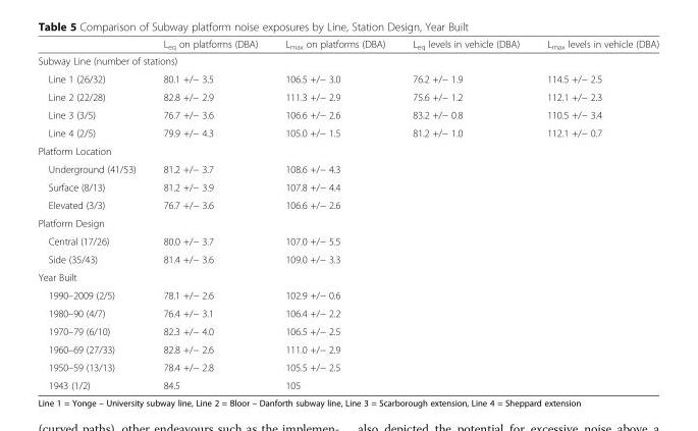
<table><thead><tr><td></td><td>L<sub>eq</sub> on platforms (DBA)</td><td>L<sub>max</sub> on platforms (DBA)</td><td>L<sub>eq</sub> levels in vehicle (DBA)</td><td>L<sub>max</sub> levels in vehicle (DBA)</td></tr></thead><tbody><tr><td colspan="5">Subway Line (number of stations)</td></tr><tr><td>Line 1 (26/32)</td><td>80.1 +/− 3.5</td><td>106.5 +/− 3.0</td><td>76.2 +/− 1.9</td><td>114.5 +/− 2.5</td></tr><tr><td>Line 2 (22/28)</td><td>82.8 +/− 2.9</td><td>111.3 +/− 2.9</td><td>75.6 +/− 1.2</td><td>112.1 +/− 2.3</td></tr><tr><td>Line 3 (3/5)</td><td>76.7 +/− 3.6</td><td>106.6 +/− 2.6</td><td>83.2 +/− 0.8</td><td>110.5 +/− 3.4</td></tr><tr><td>Line 4 (2/5)</td><td>79.9 +/− 4.3</td><td>105.0 +/− 1.5</td><td>81.2 +/− 1.0</td><td>112.1 +/− 0.7</td></tr><tr><td colspan="5">Platform Location</td></tr><tr><td>Underground (41/53)</td><td>81.2 +/− 3.7</td><td>108.6 +/− 4.3</td><td></td><td></td></tr><tr><td>Surface (8/13)</td><td>81.2 +/− 3.9</td><td>107.8 +/− 4.4</td><td></td><td></td></tr><tr><td>Elevated (3/3)</td><td>76.7 +/− 3.6</td><td>106.6 +/− 2.6</td><td></td><td></td></tr><tr><td colspan="5">Platform Design</td></tr><tr><td>Central (17/26)</td><td>80.0 +/− 3.7</td><td>107.0 +/− 5.5</td><td></td><td></td></tr><tr><td>Side (35/43)</td><td>81.4 +/− 3.6</td><td>109.0 +/− 3.3</td><td></td><td></td></tr><tr><td colspan="5">Year Built</td></tr><tr><td>1990–2009 (2/5)</td><td>78.1 +/− 2.6</td><td>102.9 +/− 0.6</td><td></td><td></td></tr><tr><td>1980–90 (4/7)</td><td>76.4 +/− 3.1</td><td>106.4 +/− 2.2</td><td></td><td></td></tr><tr><td>1970–79 (6/10)</td><td>82.3 +/− 4.0</td><td>106.5 +/− 2.5</td><td></td><td></td></tr><tr><td>1960–69 (27/33)</td><td>82.8 +/− 2.6</td><td>111.0 +/− 2.9</td><td></td><td></td></tr><tr><td>1950–59 (13/13)</td><td>78.4 +/− 2.8</td><td>105.5 +/− 2.5</td><td></td><td></td></tr><tr><td>1943 (1/2)</td><td>84.5</td><td>105</td><td></td><td></td></tr></tbody></table>